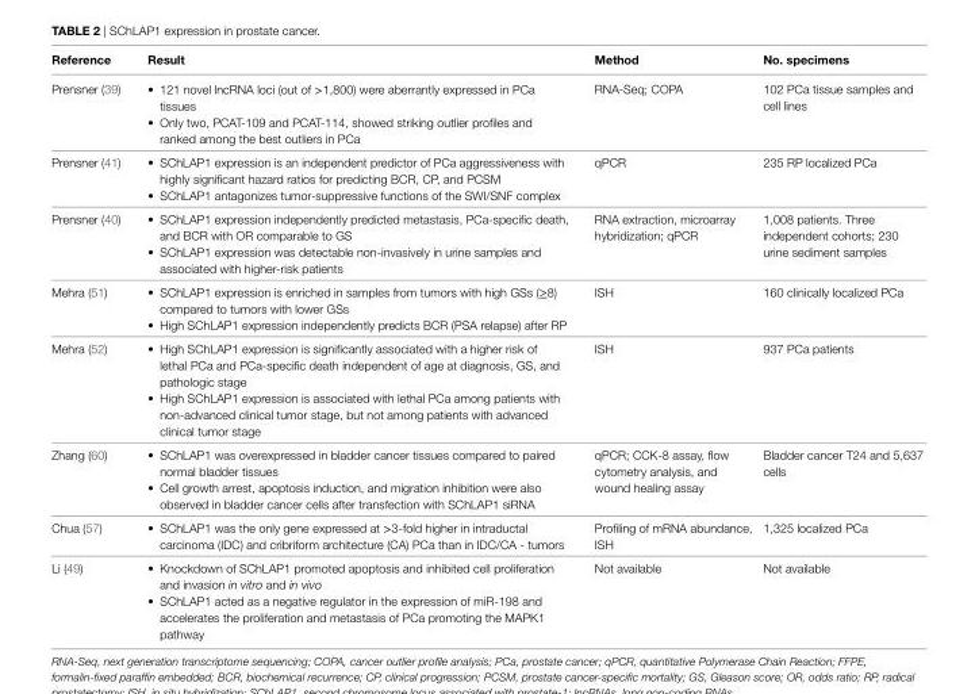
<table><thead><tr><td>Reference</td><td>Result</td><td>Method</td><td>no. specimens</td></tr></thead><tbody><tr><td>Prensner (39)</td><td>• 121 novel lncRNA loci (out of &gt;1,800) were aberrantly expressed in PCa tissues • Only two, PCAT-109 and PCAT-114, showed striking outlier profiles and ranked among the best outliers in PCa</td><td>RNA-Seq; COPA</td><td>102 PCa tissue samples and cell lines</td></tr><tr><td>Prensner (41)</td><td>• SChLAP1 expression is an independent predictor of PCa aggressiveness with highly significant hazard ratios for predicting BCR, CP, and PCSM • SChLAP1 antagonizes tumor-suppressive functions of the SWI/SNF complex</td><td>qPCR</td><td>235 RP localized PCa</td></tr><tr><td>Prensner (40)</td><td>• SChLAP1 expression independently predicted metastasis, PCa-specific death, and BCR with OR comparable to GS • SChLAP1 expression was detectable non-invasively in urine samples and associated with higher-risk patients</td><td>RNA extraction, microarray hybridization; qPCR</td><td>1,008 patients. Three independent cohorts; 230 urine sediment samples</td></tr><tr><td>Mehra (51)</td><td>• SChLAP1 expression is enriched in samples from tumors with high GSs (≥8) compared to tumors with lower GSs • High SChLAP1 expression independently predicts BCR (PSA relapse) after RP</td><td>ISH</td><td>160 clinically localized PCa</td></tr><tr><td>Mehra (52)</td><td>• High SChLAP1 expression is significantly associated with a higher risk of lethal PCa and PCa-specific death independent of age at diagnosis, GS, and pathologic stage • High SChLAP1 expression is associated with lethal PCa among patients with non-advanced clinical tumor stage, but not among patients with advanced clinical tumor stage</td><td>ISH</td><td>937 PCa patients</td></tr><tr><td>Zhang (60)</td><td>• SChLAP1 was overexpressed in bladder cancer tissues compared to paired normal bladder tissues • Cell growth arrest, apoptosis induction, and migration inhibition were also observed in bladder cancer cells after transfection with SChLAP1 siRNA</td><td>qPCR; CCK-8 assay, flow cytometry analysis, and wound healing assay</td><td>Bladder cancer T24 and 5,637 cells</td></tr><tr><td>Chua (57)</td><td>• SChLAP1 was the only gene expressed at &gt;3-fold higher in intraductal carcinoma (IDC) and cribriform architecture (CA) PCa than in IDC/CA - tumors</td><td>Profiling of mRNA abundance, ISH</td><td>1,325 localized PCa</td></tr><tr><td>Li (49)</td><td>• Knockdown of SChLAP1 promoted apoptosis and inhibited cell proliferation and invasion in vitro and in vivo • SChLAP1 acted as a negative regulator in the expression of miR-198 and accelerates the proliferation and metastasis of PCa promoting the MAPK1 pathway</td><td>Not available</td><td>Not available</td></tr></tbody></table>